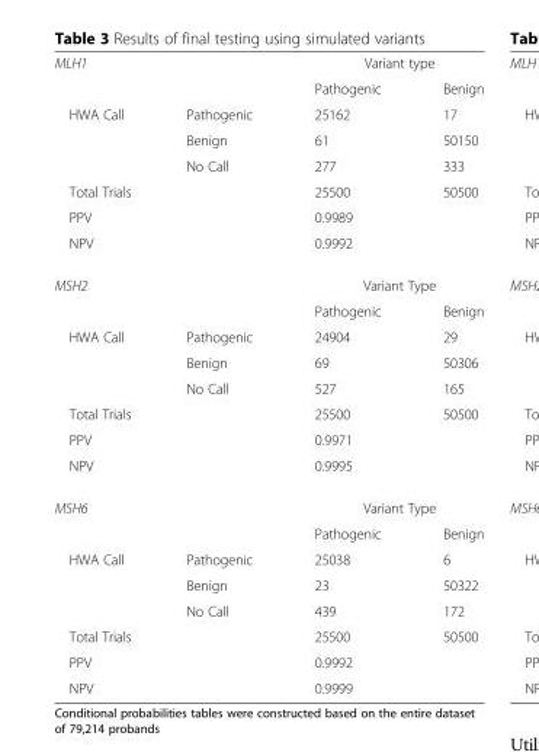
<table><tbody><tr><td rowspan="2" colspan="2">MLH1</td><td colspan="2">Variant type</td></tr><tr><td>Pathogenic</td><td>Benign</td></tr><tr><td rowspan="3">HWA Call</td><td>Pathogenic</td><td>25162</td><td>17</td></tr><tr><td>Benign</td><td>61</td><td>50150</td></tr><tr><td>No Call</td><td>277</td><td>333</td></tr><tr><td colspan="2">Total Trials</td><td>25500</td><td>50500</td></tr><tr><td colspan="2">PPV</td><td colspan="2">0.9989</td></tr><tr><td colspan="2">NPV</td><td colspan="2">0.9992</td></tr><tr><td rowspan="2" colspan="2">MSH2</td><td colspan="2">Variant Type</td></tr><tr><td>Pathogenic</td><td>Benign</td></tr><tr><td rowspan="3">HWA Call</td><td>Pathogenic</td><td>24904</td><td>29</td></tr><tr><td>Benign</td><td>69</td><td>50306</td></tr><tr><td>No Call</td><td>527</td><td>165</td></tr><tr><td colspan="2">Total Trials</td><td>25500</td><td>50500</td></tr><tr><td colspan="2">PPV</td><td colspan="2">0.9971</td></tr><tr><td colspan="2">NPV</td><td colspan="2">0.9995</td></tr><tr><td rowspan="2" colspan="2">MSH6</td><td colspan="2">Variant Type</td></tr><tr><td>Pathogenic</td><td>Benign</td></tr><tr><td rowspan="3">HWA Call</td><td>Pathogenic</td><td>25038</td><td>6</td></tr><tr><td>Benign</td><td>23</td><td>50322</td></tr><tr><td>No Call</td><td>439</td><td>172</td></tr><tr><td colspan="2">Total Trials</td><td>25500</td><td>50500</td></tr><tr><td colspan="2">PPV</td><td colspan="2">0.9992</td></tr><tr><td colspan="2">NPV</td><td colspan="2">0.9999</td></tr></tbody></table>